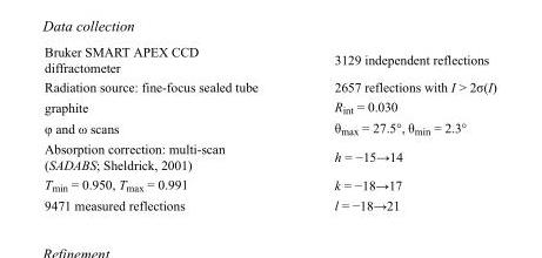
<table><tbody><tr><td>Bruker SMART APEX CCD diffractometer</td><td>3129 independent reflections</td></tr><tr><td>Radiation source: fine-focus sealed tube</td><td>2657 reflections with I &gt; 2σ(I)</td></tr><tr><td>graphite</td><td>R<sub>int</sub> = 0.030</td></tr><tr><td>φ and ω scans</td><td>θ<sub>max</sub> = 27.5°, θ<sub>min</sub> = 2.3°</td></tr><tr><td>Absorption correction: multi-scan (SADABS; Sheldrick, 2001)</td><td>h = −15→14</td></tr><tr><td>T<sub>min</sub> = 0.950, T<sub>max</sub> = 0.991</td><td>k = −18→17</td></tr><tr><td>9471 measured reflections</td><td>l = −18→21</td></tr></tbody></table>